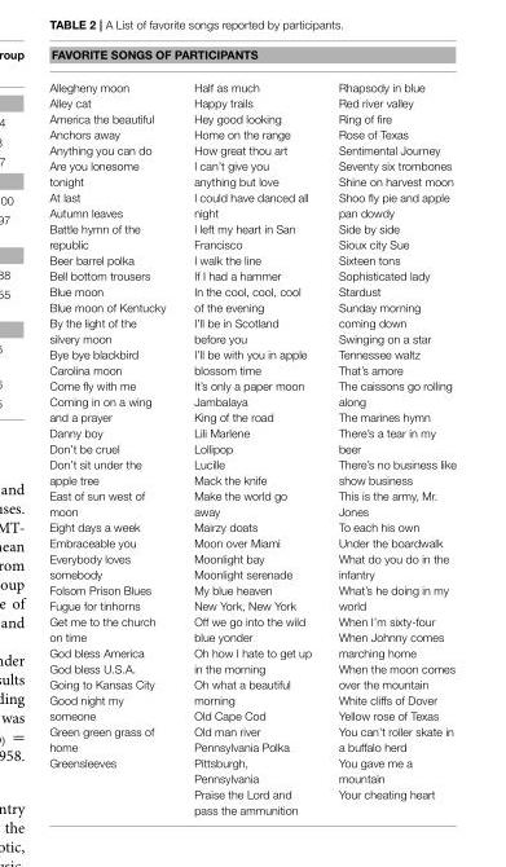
<table><thead><tr><td colspan="3">FAVORITE SONGS OF PARTICIPANTS</td></tr><tr><td>Allegheny moon Alley cat America the beautiful Anchors away Anything you can do Are you lonesome tonight At last Autumn leaves Battle hymn of the republic Beer barrel polka Bell bottom trousers Blue moon Blue moon of Kentucky By the light of the silvery moon Bye bye blackbird Carolina moon Come fly with me Coming in on a wing and a prayer Danny boy Don’t be cruel Don’t sit under the apple tree East of sun west of moon Eight days a week Embraceable you Everybody loves somebody Folsom Prison Blues Fugue for tinhorns Get me to the church on time God bless America God bless U.S.A. Going to Kansas City Good night my someone Green green grass of home Greensleeves</td><td>Half as much Happy trails Hey good looking Home on the range How great thou art I can’t give you anything but love I could have danced all night I left my heart in San Francisco I walk the line If I had a hammer In the cool, cool, cool of the evening I’ll be in Scotland before you I’ll be with you in apple blossom time It’s only a paper moon Jambalaya King of the road Lili Marlene Lollipop Lucille Mack the knife Make the world go away Mairzy doats Moon over Miami Moonlight bay Moonlight serenade My blue heaven New York, New York Off we go into the wild blue yonder Oh how I hate to get up in the morning Oh what a beautiful morning Old Cape Cod Old man river Pennsylvania Polka Pittsburgh, Pennsylvania Praise the Lord and pass the ammunition</td><td>Rhapsody in blue Red river valley Ring of fire Rose of Texas Sentimental Journey Seventy six trombones Shine on harvest moon Shoo fly pie and apple pan dowdy Side by side Sioux city Sue Sixteen tons Sophisticated lady Stardust Sunday morning coming down Swinging on a star Tennessee waltz That’s amore The caissons go rolling along The marines hymn There’s a tear in my beer There’s no business like show business This is the army, Mr. Jones To each his own Under the boardwalk What do you do in the infantry What’s he doing in my world When I’m sixty-four When Johnny comes marching home When the moon comes over the mountain White cliffs of Dover Yellow rose of Texas You can’t roller skate in a buffalo herd You gave me a mountain Your cheating heart</td></tr></thead><tbody></tbody></table>